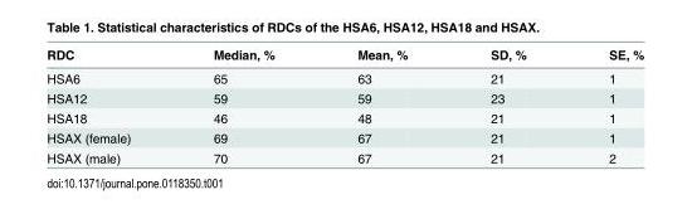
<table><thead><tr><td>RDC</td><td>Median, %</td><td>Mean, %</td><td>SD, %</td><td>SE, %</td></tr></thead><tbody><tr><td>HSA6</td><td>65</td><td>63</td><td>21</td><td>1</td></tr><tr><td>HSA12</td><td>59</td><td>59</td><td>23</td><td>1</td></tr><tr><td>HSA18</td><td>46</td><td>48</td><td>21</td><td>1</td></tr><tr><td>HSAX (female)</td><td>69</td><td>67</td><td>21</td><td>1</td></tr><tr><td>HSAX (male)</td><td>70</td><td>67</td><td>21</td><td>2</td></tr></tbody></table>